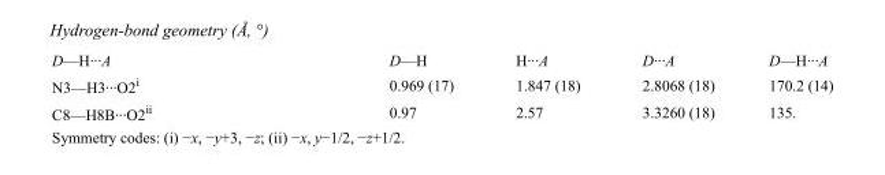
<table><tbody><tr><td>D—H···A</td><td>D—H</td><td>H···A</td><td>D···A</td><td>D—H···A</td></tr><tr><td>N3—H3···O2<sup>i</sup></td><td>0.969 (17)</td><td>1.847 (18)</td><td>2.8068 (18)</td><td>170.2 (14)</td></tr><tr><td>C8—H8B···O2<sup>ii</sup></td><td>0.97</td><td>2.57</td><td>3.3260 (18)</td><td>135.</td></tr></tbody></table>